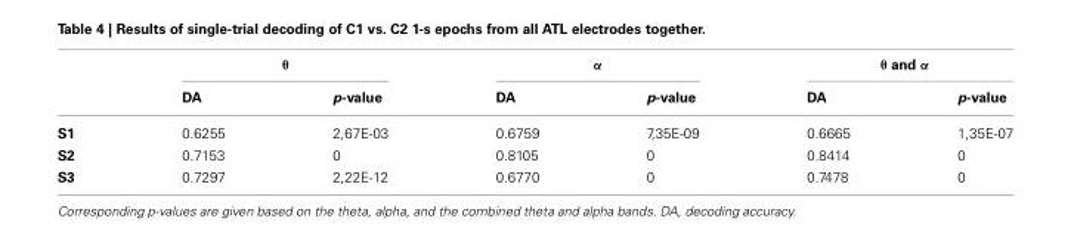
<table><thead><tr><td rowspan="2"></td><td colspan="2">θ</td><td colspan="2">α</td><td colspan="2">θ and α</td></tr><tr><td>DA</td><td>p-value</td><td>DA</td><td>p-value</td><td>DA</td><td>p-value</td></tr></thead><tbody><tr><td>S1</td><td>0.6255</td><td>2,67E-03</td><td>0.6759</td><td>7,35E-09</td><td>0.6665</td><td>1,35E-07</td></tr><tr><td>S2</td><td>0.7153</td><td>0</td><td>0.8105</td><td>0</td><td>0.8414</td><td>0</td></tr><tr><td>S3</td><td>0.7297</td><td>2,22E-12</td><td>0.6770</td><td>0</td><td>0.7478</td><td>0</td></tr></tbody></table>